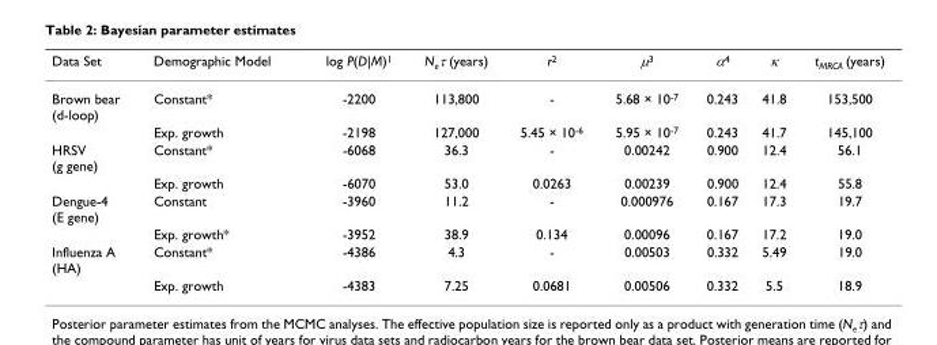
<table><thead><tr><td>Data Set</td><td>Demographic Model</td><td>log P(D|M)<sup>1</sup></td><td>N<sub>e</sub>τ (years)</td><td>r<sup>2</sup></td><td>μ<sup>3</sup></td><td>α<sup>4</sup></td><td>κ</td><td>t<sub>MRCA</sub> (years)</td></tr></thead><tbody><tr><td rowspan="2">Brown bear (d-loop)</td><td>Constant*</td><td>-2200</td><td>113,800</td><td>-</td><td>5.68 × 10<sup>-7</sup></td><td>0.243</td><td>41.8</td><td>153,500</td></tr><tr><td>Exp. growth</td><td>-2198</td><td>127,000</td><td>5.45 × 10<sup>-6</sup></td><td>5.95 × 10<sup>-7</sup></td><td>0.243</td><td>41.7</td><td>145,100</td></tr><tr><td rowspan="2">HRSV (g gene)</td><td>Constant*</td><td>-6068</td><td>36.3</td><td>-</td><td>0.00242</td><td>0.900</td><td>12.4</td><td>56.1</td></tr><tr><td>Exp. growth</td><td>-6070</td><td>53.0</td><td>0.0263</td><td>0.00239</td><td>0.900</td><td>12.4</td><td>55.8</td></tr><tr><td rowspan="2">Dengue-4 (E gene)</td><td>Constant</td><td>-3960</td><td>11.2</td><td>-</td><td>0.000976</td><td>0.167</td><td>17.3</td><td>19.7</td></tr><tr><td>Exp. growth*</td><td>-3952</td><td>38.9</td><td>0.134</td><td>0.00096</td><td>0.167</td><td>17.2</td><td>19.0</td></tr><tr><td rowspan="2">Influenza A (HA)</td><td>Constant*</td><td>-4386</td><td>4.3</td><td>-</td><td>0.00503</td><td>0.332</td><td>5.49</td><td>19.0</td></tr><tr><td>Exp. growth</td><td>-4383</td><td>7.25</td><td>0.0681</td><td>0.00506</td><td>0.332</td><td>5.5</td><td>18.9</td></tr></tbody></table>